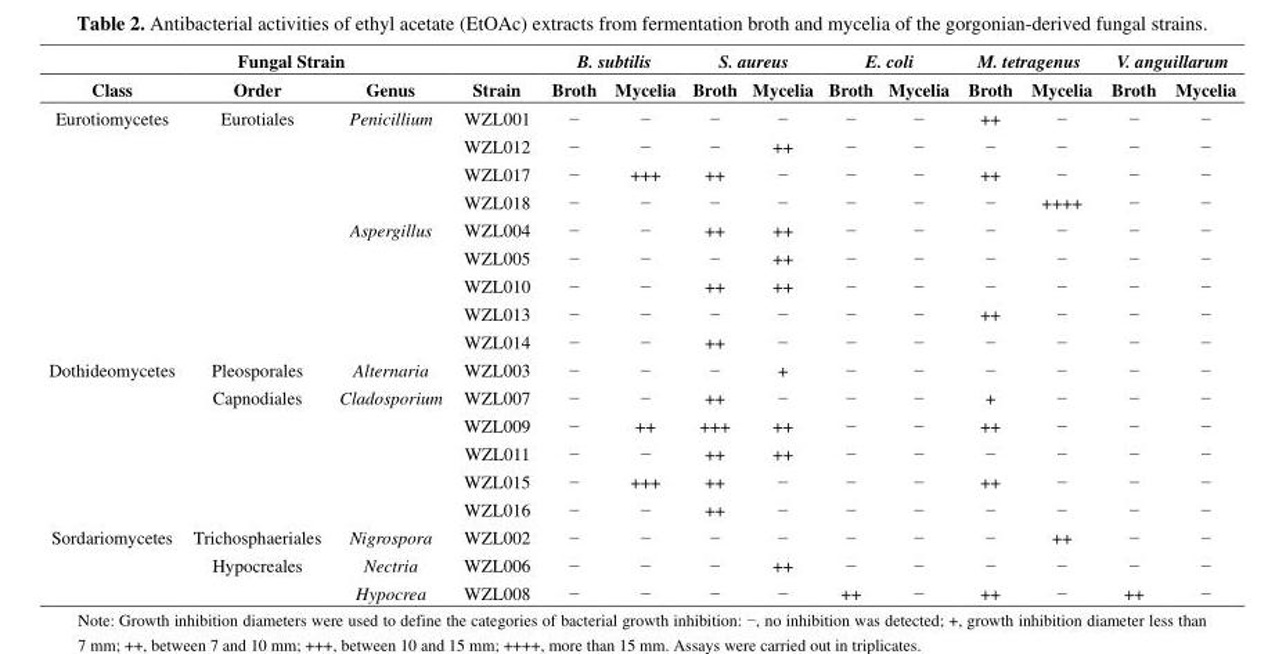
<table><thead><tr><td colspan="4">Fungal Strain</td><td colspan="2">B. subtilis</td><td colspan="2">S. aureus</td><td colspan="2">E. coli</td><td colspan="2">M. tetragenus</td><td colspan="2">V. anguillarum</td></tr><tr><td>Class</td><td>Order</td><td>Genus</td><td>Strain</td><td>Broth</td><td>Mycelia</td><td>Broth</td><td>Mycelia</td><td>Broth</td><td>Mycelia</td><td>Broth</td><td>Mycelia</td><td>Broth</td><td>Mycelia</td></tr></thead><tbody><tr><td rowspan="9">Eurotiomycetes</td><td>Eurotiales</td><td>Penicillium</td><td>WZL001</td><td>−</td><td>−</td><td>−</td><td>−</td><td>−</td><td>−</td><td>++</td><td>−</td><td>−</td><td>−</td></tr><tr><td></td><td></td><td>WZL012</td><td>−</td><td>−</td><td>−</td><td>++</td><td>−</td><td>−</td><td>−</td><td>−</td><td>−</td><td>−</td></tr><tr><td></td><td></td><td>WZL017</td><td>−</td><td>+++</td><td>++</td><td>−</td><td>−</td><td>−</td><td>++</td><td>−</td><td>−</td><td>−</td></tr><tr><td></td><td></td><td>WZL018</td><td>−</td><td>−</td><td>−</td><td>−</td><td>−</td><td>−</td><td>−</td><td>++++</td><td>−</td><td>−</td></tr><tr><td></td><td>Aspergillus</td><td>WZL004</td><td>−</td><td>−</td><td>++</td><td>++</td><td>−</td><td>−</td><td>−</td><td>−</td><td>−</td><td>−</td></tr><tr><td></td><td></td><td>WZL005</td><td>−</td><td>−</td><td>−</td><td>++</td><td>−</td><td>−</td><td>−</td><td>−</td><td>−</td><td>−</td></tr><tr><td></td><td></td><td>WZL010</td><td>−</td><td>−</td><td>++</td><td>++</td><td>−</td><td>−</td><td>−</td><td>−</td><td>−</td><td>−</td></tr><tr><td></td><td></td><td>WZL013</td><td>−</td><td>−</td><td>−</td><td>−</td><td>−</td><td>−</td><td>++</td><td>−</td><td>−</td><td>−</td></tr><tr><td></td><td></td><td>WZL014</td><td>−</td><td>−</td><td>++</td><td>−</td><td>−</td><td>−</td><td>−</td><td>−</td><td>−</td><td>−</td></tr><tr><td rowspan="6">Dothideomycetes</td><td>Pleosporales</td><td>Alternaria</td><td>WZL003</td><td>−</td><td>−</td><td>−</td><td>+</td><td>−</td><td>−</td><td>−</td><td>−</td><td>−</td><td>−</td></tr><tr><td>Capnodiales</td><td>Cladosporium</td><td>WZL007</td><td>−</td><td>−</td><td>++</td><td>−</td><td>−</td><td>−</td><td>+</td><td>−</td><td>−</td><td>−</td></tr><tr><td></td><td></td><td>WZL009</td><td>−</td><td>++</td><td>+++</td><td>++</td><td>−</td><td>−</td><td>++</td><td>−</td><td>−</td><td>−</td></tr><tr><td></td><td></td><td>WZL011</td><td>−</td><td>−</td><td>++</td><td>++</td><td>−</td><td>−</td><td>−</td><td>−</td><td>−</td><td>−</td></tr><tr><td></td><td></td><td>WZL015</td><td>−</td><td>+++</td><td>++</td><td>−</td><td>−</td><td>−</td><td>++</td><td>−</td><td>−</td><td>−</td></tr><tr><td></td><td></td><td>WZL016</td><td>−</td><td>−</td><td>++</td><td>−</td><td>−</td><td>−</td><td>−</td><td>−</td><td>−</td><td>−</td></tr><tr><td rowspan="3">Sordariomycetes</td><td>Trichosphaeriales</td><td>Nigrospora</td><td>WZL002</td><td>−</td><td>−</td><td>−</td><td>−</td><td>−</td><td>−</td><td>−</td><td>++</td><td>−</td><td>−</td></tr><tr><td>Hypocreales</td><td>Nectria</td><td>WZL006</td><td>−</td><td>−</td><td>−</td><td>++</td><td>−</td><td>−</td><td>−</td><td>−</td><td>−</td><td>−</td></tr><tr><td></td><td>Hypocrea</td><td>WZL008</td><td>−</td><td>−</td><td>−</td><td>−</td><td>++</td><td>−</td><td>++</td><td>−</td><td>++</td><td>−</td></tr></tbody></table>